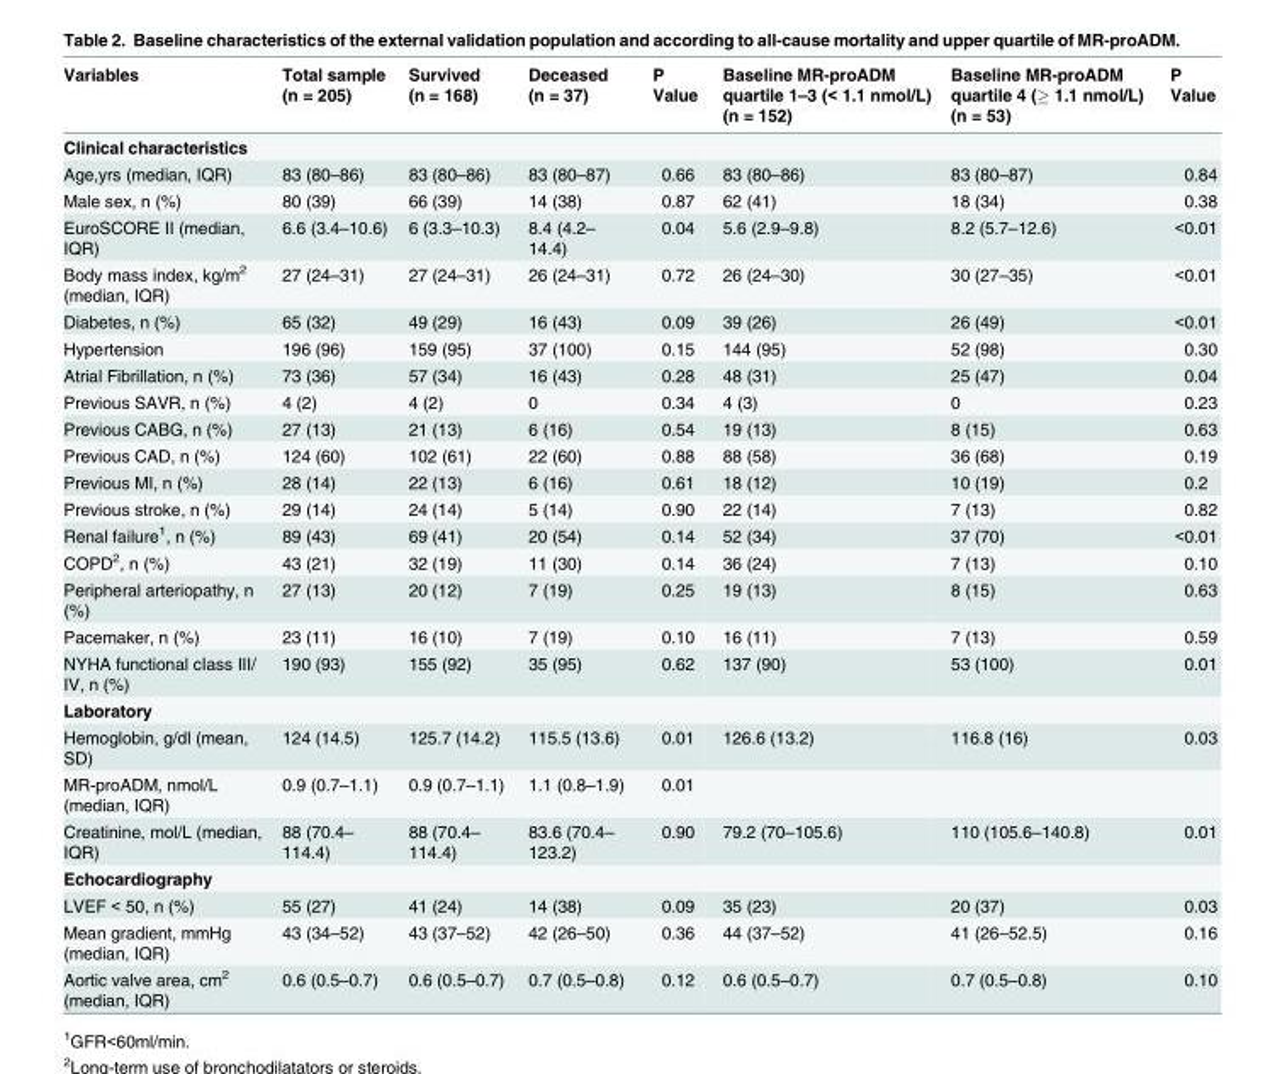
<table><thead><tr><td>Variables</td><td>Total sample (n = 205)</td><td>Survived (n = 168)</td><td>Deceased (n = 37)</td><td>P Value</td><td>Baseline MR-proADM quartile 1–3 (&lt; 1.1 nmol/L) (n = 152)</td><td>Baseline MR-proADM quartile 4 (≥ 1.1 nmol/L) (n = 53)</td><td>P Value</td></tr></thead><tbody><tr><td colspan="8">Clinical characteristics</td></tr><tr><td>Age,yrs (median, IQR)</td><td>83 (80–86)</td><td>83 (80–86)</td><td>83 (80–87)</td><td>0.66</td><td>83 (80–86)</td><td>83 (80–87)</td><td>0.84</td></tr><tr><td>Male sex, n (%)</td><td>80 (39)</td><td>66 (39)</td><td>14 (38)</td><td>0.87</td><td>62 (41)</td><td>18 (34)</td><td>0.38</td></tr><tr><td>EuroSCORE II (median, IQR)</td><td>6.6 (3.4–10.6)</td><td>6 (3.3–10.3)</td><td>8.4 (4.2– 14.4)</td><td>0.04</td><td>5.6 (2.9–9.8)</td><td>8.2 (5.7–12.6)</td><td>&lt;0.01</td></tr><tr><td>Body mass index, kg/m<sup>2</sup> (median, IQR)</td><td>27 (24–31)</td><td>27 (24–31)</td><td>26 (24–31)</td><td>0.72</td><td>26 (24–30)</td><td>30 (27–35)</td><td>&lt;0.01</td></tr><tr><td>Diabetes, n (%)</td><td>65 (32)</td><td>49 (29)</td><td>16 (43)</td><td>0.09</td><td>39 (26)</td><td>26 (49)</td><td>&lt;0.01</td></tr><tr><td>Hypertension</td><td>196 (96)</td><td>159 (95)</td><td>37 (100)</td><td>0.15</td><td>144 (95)</td><td>52 (98)</td><td>0.30</td></tr><tr><td>Atrial Fibrillation, n (%)</td><td>73 (36)</td><td>57 (34)</td><td>16 (43)</td><td>0.28</td><td>48 (31)</td><td>25 (47)</td><td>0.04</td></tr><tr><td>Previous SAVR, n (%)</td><td>4 (2)</td><td>4 (2)</td><td>0</td><td>0.34</td><td>4 (3)</td><td>0</td><td>0.23</td></tr><tr><td>Previous CABG, n (%)</td><td>27 (13)</td><td>21 (13)</td><td>6 (16)</td><td>0.54</td><td>19 (13)</td><td>8 (15)</td><td>0.63</td></tr><tr><td>Previous CAD, n (%)</td><td>124 (60)</td><td>102 (61)</td><td>22 (60)</td><td>0.88</td><td>88 (58)</td><td>36 (68)</td><td>0.19</td></tr><tr><td>Previous MI, n (%)</td><td>28 (14)</td><td>22 (13)</td><td>6 (16)</td><td>0.61</td><td>18 (12)</td><td>10 (19)</td><td>0.2</td></tr><tr><td>Previous stroke, n (%)</td><td>29 (14)</td><td>24 (14)</td><td>5 (14)</td><td>0.90</td><td>22 (14)</td><td>7 (13)</td><td>0.82</td></tr><tr><td>Renal failure<sup>1</sup>, n (%)</td><td>89 (43)</td><td>69 (41)</td><td>20 (54)</td><td>0.14</td><td>52 (34)</td><td>37 (70)</td><td>&lt;0.01</td></tr><tr><td>COPD<sup>2</sup>, n (%)</td><td>43 (21)</td><td>32 (19)</td><td>11 (30)</td><td>0.14</td><td>36 (24)</td><td>7 (13)</td><td>0.10</td></tr><tr><td>Peripheral arteriopathy, n (%)</td><td>27 (13)</td><td>20 (12)</td><td>7 (19)</td><td>0.25</td><td>19 (13)</td><td>8 (15)</td><td>0.63</td></tr><tr><td>Pacemaker, n (%)</td><td>23 (11)</td><td>16 (10)</td><td>7 (19)</td><td>0.10</td><td>16 (11)</td><td>7 (13)</td><td>0.59</td></tr><tr><td>NYHA functional cIass III/ IV, n (%)</td><td>190 (93)</td><td>155 (92)</td><td>35 (95)</td><td>0.62</td><td>137 (90)</td><td>53 (100)</td><td>0.01</td></tr><tr><td colspan="8">Laboratory</td></tr><tr><td>Hemoglobin, g/dl (mean, SD)</td><td>124 (14.5)</td><td>125.7 (14.2)</td><td>115.5 (13.6)</td><td>0.01</td><td>126.6 (13.2)</td><td>116.8 (16)</td><td>0.03</td></tr><tr><td>MR-proADM, nmol/L (median, IQR)</td><td>0.9 (0.7–1.1)</td><td>0.9 (0.7–1.1)</td><td>1.1 (0.8–1.9)</td><td>0.01</td><td></td><td></td><td></td></tr><tr><td>Creatinine, mol/L (median, IQR)</td><td>88 (70.4– 114.4)</td><td>88 (70.4– 114.4)</td><td>83.6 (70.4– 123.2)</td><td>0.90</td><td>79.2 (70–105.6)</td><td>110 (105.6–140.8)</td><td>0.01</td></tr><tr><td colspan="8">Echocardiography</td></tr><tr><td>LVEF &lt; 50, n (%)</td><td>55 (27)</td><td>41 (24)</td><td>14 (38)</td><td>0.09</td><td>35 (23)</td><td>20 (37)</td><td>0.03</td></tr><tr><td>Mean gradient, mmHg (median, IQR)</td><td>43 (34–52)</td><td>43 (37–52)</td><td>42 (26–50)</td><td>0.36</td><td>44 (37–52)</td><td>41 (26–52.5)</td><td>0.16</td></tr><tr><td>Aortic valve area, cm<sup>2</sup> (median, IQR)</td><td>0.6 (0.5–0.7)</td><td>0.6 (0.5–0.7)</td><td>0.7 (0.5–0.8)</td><td>0.12</td><td>0.6 (0.5–0.7)</td><td>0.7 (0.5–0.8)</td><td>0.10</td></tr></tbody></table>